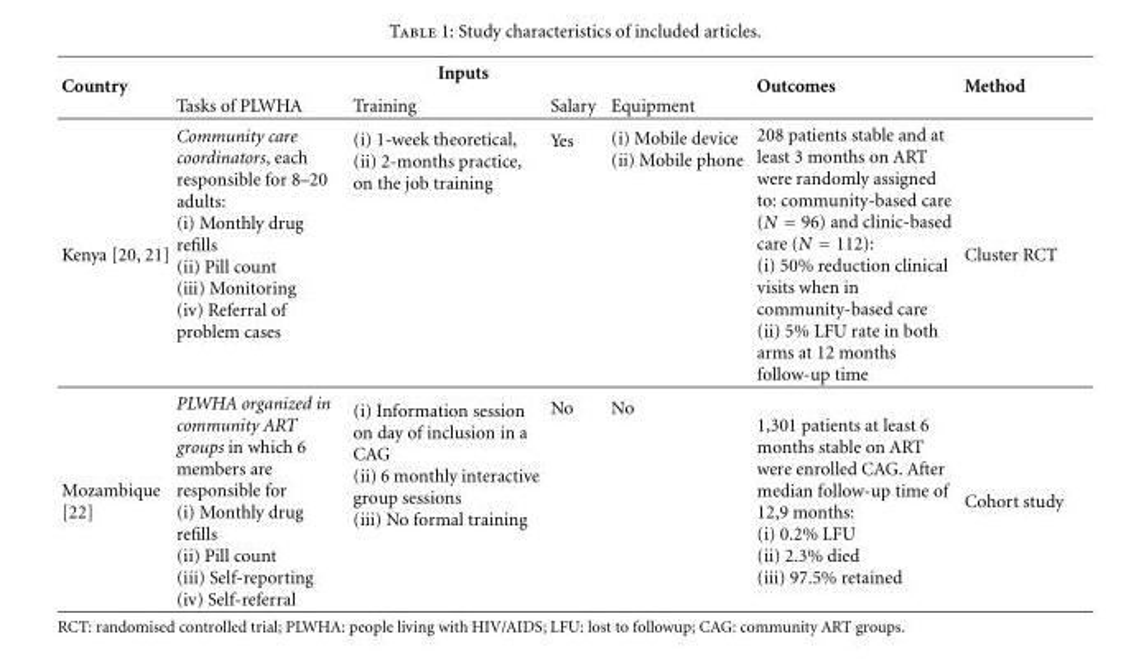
<table><thead><tr><td rowspan="2">Country</td><td colspan="4">Inputs</td><td rowspan="2">Outcomes</td><td rowspan="2">Method</td></tr><tr><td>Tasks of PLWHA</td><td>Training</td><td>Salary</td><td>Equipment</td></tr></thead><tbody><tr><td>Kenya [20, 21]</td><td>Community care coordinators, each responsible for 8–20 adults: (i) Monthly drug refills (ii) Pill count (iii) Monitoring (iv) Referral of problem cases</td><td>(i) 1-week theoretical, (ii) 2-months practice, on the job training</td><td>Yes</td><td>(i) Mobile device (ii) Mobile phone</td><td>208 patients stable and at least 3 months on ART were randomly assigned to: community-based care (N = 96) and clinic-based care (N = 112): (i) 50% reduction clinical visits when in community-based care (ii) 5% LFU rate in both arms at 12 months follow-up time</td><td>Cluster RCT</td></tr><tr><td>Mozambique [22]</td><td>PLWHA organized in community ART groups in which 6 members are responsible for (i) Monthly drug refills (ii) Pill count (iii) Self-reporting (iv) Self-referral</td><td>(i) Information session on day of inclusion in a CAG (ii) 6 monthly interactive group sessions (iii) No formal training</td><td>No</td><td>No</td><td>1,301 patients at least 6 months stable on ART were enrolled CAG. After median follow-up time of 12,9 months: (i) 0.2% LFU (ii) 2.3% died (iii) 97.5% retained</td><td>Cohort study</td></tr></tbody></table>